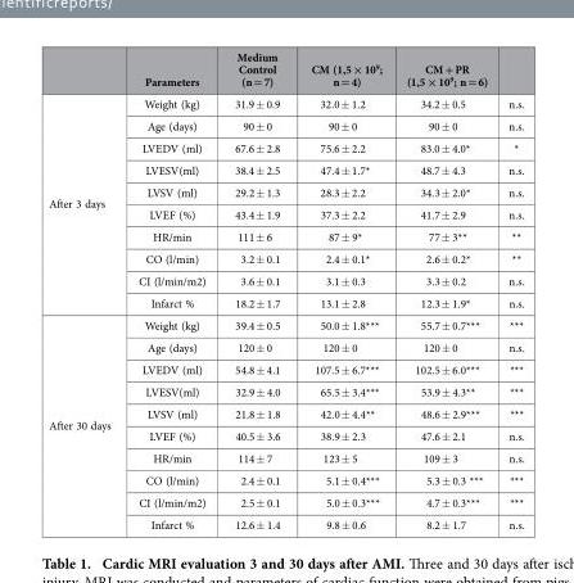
<table><thead><tr><td></td><td>Parameters</td><td>Medium Control (n = 7)</td><td>CM (1,5 × 10<sup>9</sup>; n = 4)</td><td>CM + PR (1,5 × 10<sup>9</sup>; n = 6)</td><td></td></tr></thead><tbody><tr><td rowspan="10">After 3 days</td><td>Weight (kg)</td><td>31.9 ± 0.9</td><td>32.0 ± 1.2</td><td>34.2 ± 0.5</td><td>n.s.</td></tr><tr><td>Age (days)</td><td>90 ± 0</td><td>90 ± 0</td><td>90 ± 0</td><td>n.s.</td></tr><tr><td>LVEDV (ml)</td><td>67.6 ± 2.8</td><td>75.6 ± 2.2</td><td>83.0 ± 4.0*</td><td>*</td></tr><tr><td>LVESV(ml)</td><td>38.4 ± 2.5</td><td>47.4 ± 1.7*</td><td>48.7 ± 4.3</td><td>n.s.</td></tr><tr><td>LVSV (ml)</td><td>29.2 ± 1.3</td><td>28.3 ± 2.2</td><td>34.3 ± 2.0*</td><td>n.s.</td></tr><tr><td>LVEF (%)</td><td>43.4 ± 1.9</td><td>37.3 ± 2.2</td><td>41.7 ± 2.9</td><td>n.s.</td></tr><tr><td>HR/min</td><td>111 ± 6</td><td>87 ± 9*</td><td>77 ± 3**</td><td>**</td></tr><tr><td>CO (l/min)</td><td>3.2 ± 0.1</td><td>2.4 ± 0.1*</td><td>2.6 ± 0.2*</td><td>**</td></tr><tr><td>CI (l/min/m2)</td><td>3.6 ± 0.1</td><td>3.1 ± 0.3</td><td>3.3 ± 0.2</td><td>n.s.</td></tr><tr><td>Infarct %</td><td>18.2 ± 1.7</td><td>13.1 ± 2.8</td><td>12.3 ± 1.9*</td><td>n.s.</td></tr><tr><td rowspan="10">After 30 days</td><td>Weight (kg)</td><td>39.4 ± 0.5</td><td>50.0 ± 1.8***</td><td>55.7 ± 0.7***</td><td>***</td></tr><tr><td>Age (days)</td><td>120 ± 0</td><td>120 ± 0</td><td>120 ± 0</td><td>n.s.</td></tr><tr><td>LVEDV (ml)</td><td>54.8 ± 4.1</td><td>107.5 ± 6.7***</td><td>102.5 ± 6.0***</td><td>***</td></tr><tr><td>LVESV(ml)</td><td>32.9 ± 4.0</td><td>65.5 ± 3.4***</td><td>53.9 ± 4.3**</td><td>***</td></tr><tr><td>LVSV (ml)</td><td>21.8 ± 1.8</td><td>42.0 ± 4.4**</td><td>48.6 ± 2.9***</td><td>***</td></tr><tr><td>LVEF (%)</td><td>40.5 ± 3.6</td><td>38.9 ± 2.3</td><td>47.6 ± 2.1</td><td>n.s.</td></tr><tr><td>HR/min</td><td>114 ± 7</td><td>123 ± 5</td><td>109 ± 3</td><td>n.s.</td></tr><tr><td>CO (l/min)</td><td>2.4 ± 0.1</td><td>5.1 ± 0.4***</td><td>5.3 ± 0.3 ***</td><td>***</td></tr><tr><td>CI (l/min/m2)</td><td>2.5 ± 0.1</td><td>5.0 ± 0.3***</td><td>4.7 ± 0.3***</td><td>***</td></tr><tr><td>Infarct %</td><td>12.6 ± 1.4</td><td>9.8 ± 0.6</td><td>8.2 ± 1.7</td><td>n.s.</td></tr></tbody></table>